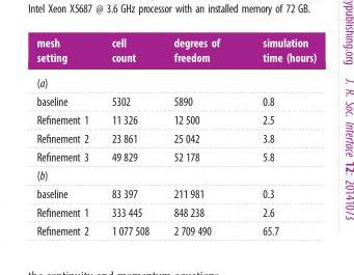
<table><thead><tr><td>mesh setting</td><td>cell count</td><td>degrees of freedom</td><td>simulation time (hours)</td></tr></thead><tbody><tr><td colspan="4">(a)</td></tr><tr><td>baseline</td><td>5302</td><td>5890</td><td>0.8</td></tr><tr><td>Refinement 1</td><td>11 326</td><td>12 500</td><td>2.5</td></tr><tr><td>Refinement 2</td><td>23 861</td><td>25 042</td><td>3.8</td></tr><tr><td>Refinement 3</td><td>49 829</td><td>52 178</td><td>5.8</td></tr><tr><td colspan="4">(b)</td></tr><tr><td>baseline</td><td>83 397</td><td>211 981</td><td>0.3</td></tr><tr><td>Refinement 1</td><td>333 445</td><td>848 238</td><td>2.6</td></tr><tr><td>Refinement 2</td><td>1 077 508</td><td>2 709 490</td><td>65.7</td></tr></tbody></table>